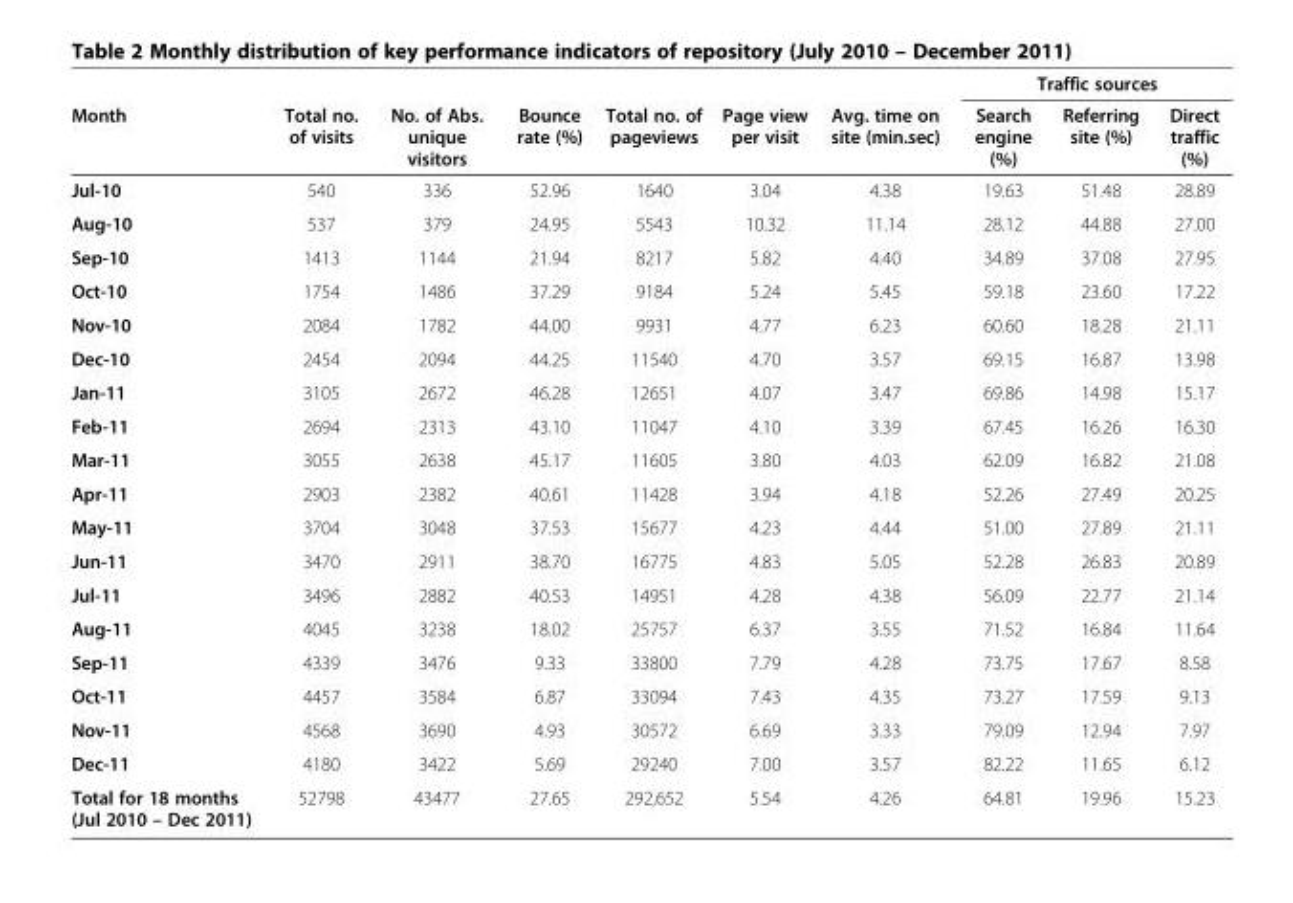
<table><thead><tr><td rowspan="2">Month</td><td rowspan="2">Total no. of visits</td><td rowspan="2">No. of Abs. unique visitors</td><td rowspan="2">Bounce rate (%)</td><td rowspan="2">Total no. of pageviews</td><td rowspan="2">Page view per visit</td><td rowspan="2">Avg. time on site (min.sec)</td><td colspan="3">Traffic sources</td></tr><tr><td>Search engine (%)</td><td>Referring site (%)</td><td>Direct traffic (%)</td></tr></thead><tbody><tr><td>Jul-10</td><td>540</td><td>336</td><td>52.96</td><td>1640</td><td>3.04</td><td>4.38</td><td>19.63</td><td>51.48</td><td>28.89</td></tr><tr><td>Aug-10</td><td>537</td><td>379</td><td>24.95</td><td>5543</td><td>10.32</td><td>11.14</td><td>28.12</td><td>44.88</td><td>27.00</td></tr><tr><td>Sep-10</td><td>1413</td><td>1144</td><td>21.94</td><td>8217</td><td>5.82</td><td>4.40</td><td>34.89</td><td>37.08</td><td>27.95</td></tr><tr><td>Oct-10</td><td>1754</td><td>1486</td><td>37.29</td><td>9184</td><td>5.24</td><td>5.45</td><td>59.18</td><td>23.60</td><td>17.22</td></tr><tr><td>Nov-10</td><td>2084</td><td>1782</td><td>44.00</td><td>9931</td><td>4.77</td><td>6.23</td><td>60.60</td><td>18.28</td><td>21.11</td></tr><tr><td>Dec-10</td><td>2454</td><td>2094</td><td>44.25</td><td>11540</td><td>4.70</td><td>3.57</td><td>69.15</td><td>16.87</td><td>13.98</td></tr><tr><td>Jan-11</td><td>3105</td><td>2672</td><td>46.28</td><td>12651</td><td>4.07</td><td>3.47</td><td>69.86</td><td>14.98</td><td>15.17</td></tr><tr><td>Feb-11</td><td>2694</td><td>2313</td><td>43.10</td><td>11047</td><td>4.10</td><td>3.39</td><td>67.45</td><td>16.26</td><td>16.30</td></tr><tr><td>Mar-11</td><td>3055</td><td>2638</td><td>45.17</td><td>11605</td><td>3.80</td><td>4.03</td><td>62.09</td><td>16.82</td><td>21.08</td></tr><tr><td>Apr-11</td><td>2903</td><td>2382</td><td>40.61</td><td>11428</td><td>3.94</td><td>4.18</td><td>52.26</td><td>27.49</td><td>20.25</td></tr><tr><td>May-11</td><td>3704</td><td>3048</td><td>37.53</td><td>15677</td><td>4.23</td><td>4.44</td><td>51.00</td><td>27.89</td><td>21.11</td></tr><tr><td>Jun-11</td><td>3470</td><td>2911</td><td>38.70</td><td>16775</td><td>4.83</td><td>5.05</td><td>52.28</td><td>26.83</td><td>20.89</td></tr><tr><td>Jul-11</td><td>3496</td><td>2882</td><td>40.53</td><td>14951</td><td>4.28</td><td>4.38</td><td>56.09</td><td>22.77</td><td>21.14</td></tr><tr><td>Aug-11</td><td>4045</td><td>3238</td><td>18.02</td><td>25757</td><td>6.37</td><td>3.55</td><td>71.52</td><td>16.84</td><td>11.64</td></tr><tr><td>Sep-11</td><td>4339</td><td>3476</td><td>9.33</td><td>33800</td><td>7.79</td><td>4.28</td><td>73.75</td><td>17.67</td><td>8.58</td></tr><tr><td>Oct-11</td><td>4457</td><td>3584</td><td>6.87</td><td>33094</td><td>7.43</td><td>4.35</td><td>73.27</td><td>17.59</td><td>9.13</td></tr><tr><td>Nov-11</td><td>4568</td><td>3690</td><td>4.93</td><td>30572</td><td>6.69</td><td>3.33</td><td>79.09</td><td>12.94</td><td>7.97</td></tr><tr><td>Dec-11</td><td>4180</td><td>3422</td><td>5.69</td><td>29240</td><td>7.00</td><td>3.57</td><td>82.22</td><td>11.65</td><td>6.12</td></tr><tr><td>Total for 18 months (Jul 2010 – Dec 2011)</td><td>52798</td><td>43477</td><td>27.65</td><td>292,652</td><td>5.54</td><td>4.26</td><td>64.81</td><td>19.96</td><td>15.23</td></tr></tbody></table>